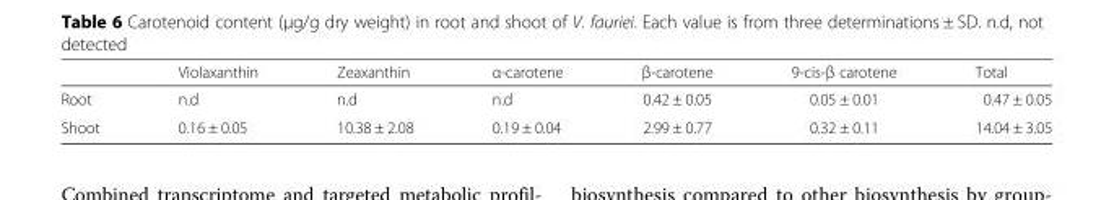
<table><thead><tr><td></td><td>Violaxanthin</td><td>Zeaxanthin</td><td>α-carotene</td><td>β-carotene</td><td>9-cis-β carotene</td><td>Total</td></tr></thead><tbody><tr><td>Root</td><td>n.d</td><td>n.d</td><td>n.d</td><td>0.42 ± 0.05</td><td>0.05 ± 0.01</td><td>0.47 ± 0.05</td></tr><tr><td>Shoot</td><td>0.16 ± 0.05</td><td>10.38 ± 2.08</td><td>0.19 ± 0.04</td><td>2.99 ± 0.77</td><td>0.32 ± 0.11</td><td>14.04 ± 3.05</td></tr></tbody></table>